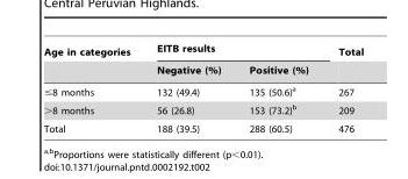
<table><thead><tr><td rowspan="2">Age in categories</td><td colspan="2">EITB results</td><td rowspan="2">Total</td></tr><tr><td>Negative (%)</td><td>Positive (%)</td></tr></thead><tbody><tr><td>≤8 months</td><td>132 (49.4)</td><td>135 (50.6)<sup>a</sup></td><td>267</td></tr><tr><td>&gt;8 months</td><td>56 (26.8)</td><td>153 (73.2)<sup>b</sup></td><td>209</td></tr><tr><td>Total</td><td>188 (39.5)</td><td>288 (60.5)</td><td>476</td></tr></tbody></table>